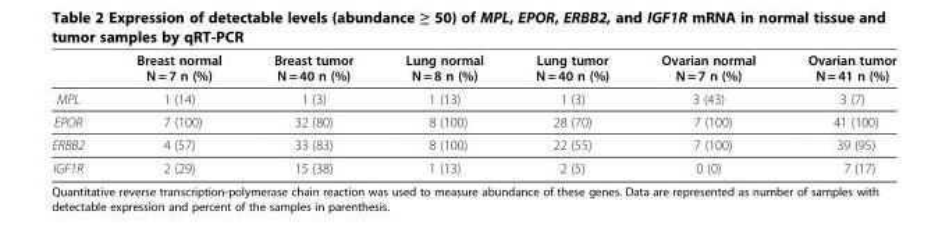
<table><thead><tr><td></td><td>Breast normal N = 7 n (%)</td><td>Breast tumor N = 40 n (%)</td><td>Lung normal N = 8 n (%)</td><td>Lung tumor N = 40 n (%)</td><td>Ovarian normal N = 7 n (%)</td><td>Ovarian tumor N = 41 n (%)</td></tr></thead><tbody><tr><td>MPL</td><td>1 (14)</td><td>1 (3)</td><td>1 (13)</td><td>1 (3)</td><td>3 (43)</td><td>3 (7)</td></tr><tr><td>EPOR</td><td>7 (100)</td><td>32 (80)</td><td>8 (100)</td><td>28 (70)</td><td>7 (100)</td><td>41 (100)</td></tr><tr><td>ERBB2</td><td>4 (57)</td><td>33 (83)</td><td>8 (100)</td><td>22 (55)</td><td>7 (100)</td><td>39 (95)</td></tr><tr><td>IGF1R</td><td>2 (29)</td><td>15 (38)</td><td>1 (13)</td><td>2 (5)</td><td>0 (0)</td><td>7 (17)</td></tr></tbody></table>